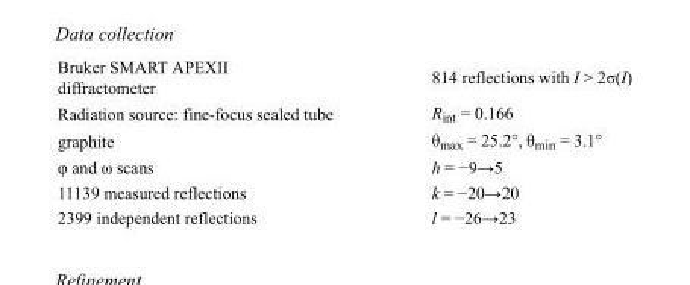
<table><tbody><tr><td>Bruker SMART APEXII diffractometer</td><td>814 reflections with I &gt; 2σ(I)</td></tr><tr><td>Radiation source: fine-focus sealed tube</td><td>R<sub>int</sub> = 0.166</td></tr><tr><td>graphite</td><td>θ<sub>max</sub> = 25.2°, θ<sub>min</sub> = 3.1°</td></tr><tr><td>φ and ω scans</td><td>h = −9→5</td></tr><tr><td>11139 measured reflections</td><td>k = −20→20</td></tr><tr><td>2399 independent reflections</td><td>l = −26→23</td></tr></tbody></table>